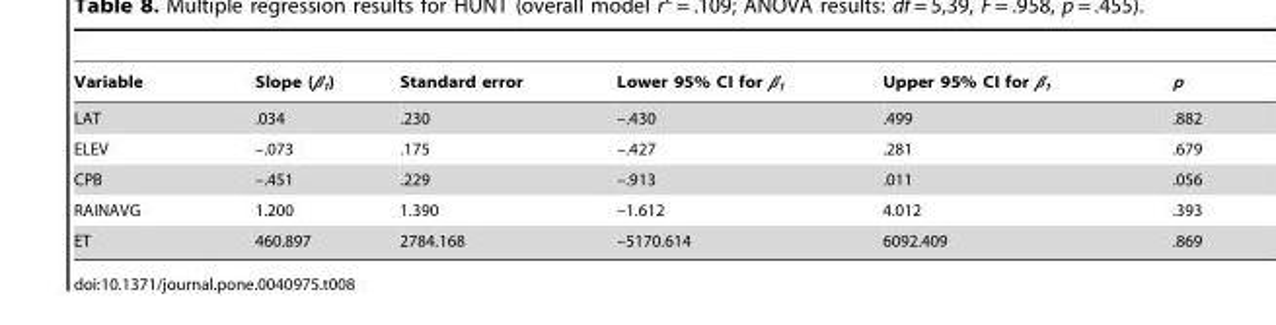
<table><thead><tr><td>Variable</td><td>Slope (β<sub>1</sub>)</td><td>Standard error</td><td>Lower 95% CI for β<sub>1</sub></td><td>Upper 95% CI for β<sub>1</sub></td><td>p</td></tr></thead><tbody><tr><td>LAT</td><td>.034</td><td>.230</td><td>–.430</td><td>.499</td><td>.882</td></tr><tr><td>ELEV</td><td>–.073</td><td>.175</td><td>–.427</td><td>.281</td><td>.679</td></tr><tr><td>CPB</td><td>–.451</td><td>.229</td><td>–.913</td><td>.011</td><td>.056</td></tr><tr><td>RAINAVG</td><td>1.200</td><td>1.390</td><td>–1.612</td><td>4.012</td><td>.393</td></tr><tr><td>ET</td><td>460.897</td><td>2784.168</td><td>–5170.614</td><td>6092.409</td><td>.869</td></tr></tbody></table>